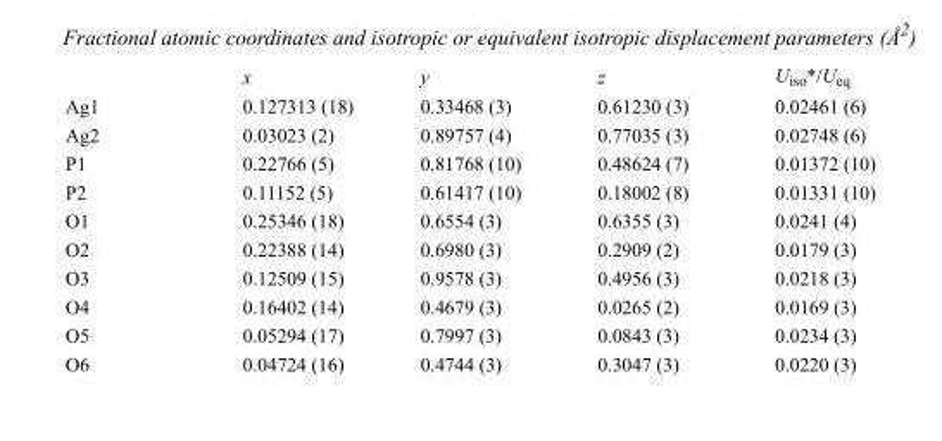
<table><thead><tr><td></td><td>x</td><td>y</td><td>z</td><td>U<sub>iso</sub>*/U<sub>eq</sub></td></tr></thead><tbody><tr><td>Ag1</td><td>0.127313 (18)</td><td>0.33468 (3)</td><td>0.61230 (3)</td><td>0.02461 (6)</td></tr><tr><td>Ag2</td><td>0.03023 (2)</td><td>0.89757 (4)</td><td>0.77035 (3)</td><td>0.02748 (6)</td></tr><tr><td>P1</td><td>0.22766 (5)</td><td>0.81768 (10)</td><td>0.48624 (7)</td><td>0.01372 (10)</td></tr><tr><td>P2</td><td>0.11152 (5)</td><td>0.61417 (10)</td><td>0.18002 (8)</td><td>0.01331 (10)</td></tr><tr><td>O1</td><td>0.25346 (18)</td><td>0.6554 (3)</td><td>0.6355 (3)</td><td>0.0241 (4)</td></tr><tr><td>O2</td><td>0.22388 (14)</td><td>0.6980 (3)</td><td>0.2909 (2)</td><td>0.0179 (3)</td></tr><tr><td>O3</td><td>0.12509 (15)</td><td>0.9578 (3)</td><td>0.4956 (3)</td><td>0.0218 (3)</td></tr><tr><td>O4</td><td>0.16402 (14)</td><td>0.4679 (3)</td><td>0.0265 (2)</td><td>0.0169 (3)</td></tr><tr><td>O5</td><td>0.05294 (17)</td><td>0.7997 (3)</td><td>0.0843 (3)</td><td>0.0234 (3)</td></tr><tr><td>O6</td><td>0.04724 (16)</td><td>0.4744 (3)</td><td>0.3047 (3)</td><td>0.0220 (3)</td></tr></tbody></table>